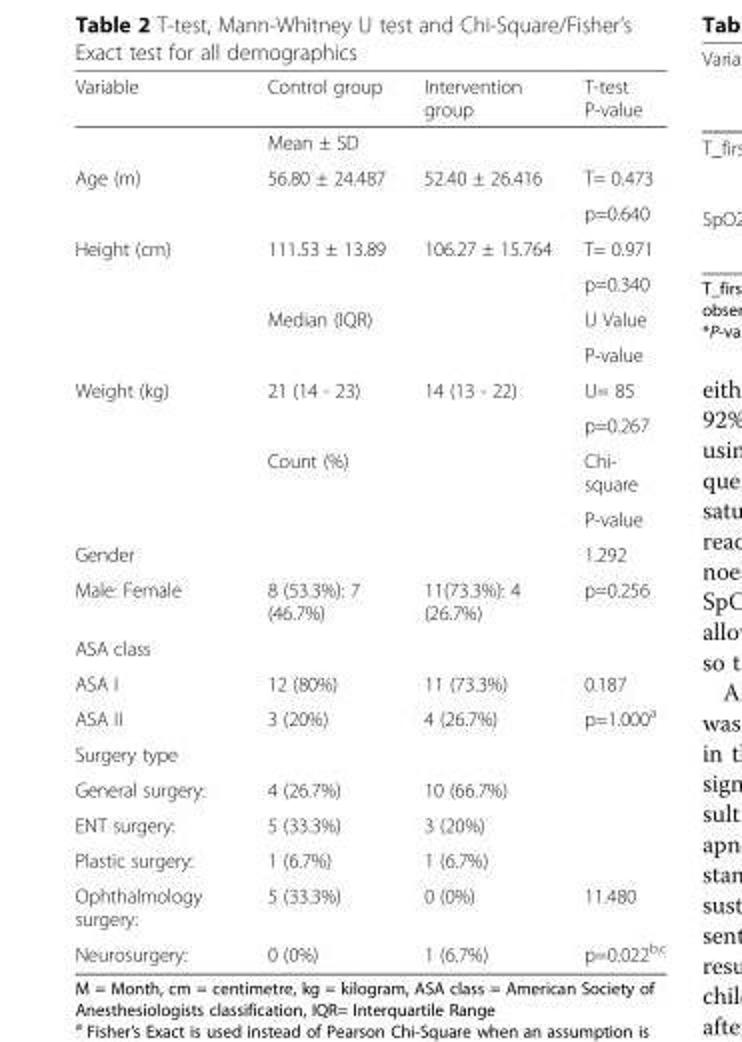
<table><thead><tr><td>Variable</td><td>Control group</td><td>Intervention group</td><td>T-test P-value</td></tr></thead><tbody><tr><td></td><td colspan="2">Mean ± SD</td><td></td></tr><tr><td rowspan="2">Age (m)</td><td rowspan="2">56.80 ± 24.487</td><td rowspan="2">52.40 ± 26.416</td><td>T= 0.473</td></tr><tr><td>p=0.640</td></tr><tr><td rowspan="4">Height (cm)</td><td rowspan="2">111.53 ± 13.89</td><td rowspan="2">106.27 ± 15.764</td><td>T= 0.971</td></tr><tr><td>p=0.340</td></tr><tr><td rowspan="2" colspan="2">Median (IQR)</td><td>U Value</td></tr><tr><td>P-value</td></tr><tr><td rowspan="4">Weight (kg)</td><td rowspan="2">21 (14 - 23)</td><td rowspan="2">14 (13 - 22)</td><td>U= 85</td></tr><tr><td>p=0.267</td></tr><tr><td rowspan="2" colspan="2">Count (%)</td><td>Chi- square</td></tr><tr><td>P-value</td></tr><tr><td>Gender</td><td></td><td></td><td>1.292</td></tr><tr><td>Male: Female</td><td>8 (53.3%): 7 (46.7%)</td><td>11(73.3%): 4 (26.7%)</td><td>p=0.256</td></tr><tr><td colspan="4">ASA class</td></tr><tr><td>ASA I</td><td>12 (80%)</td><td>11 (73.3%)</td><td>0.187</td></tr><tr><td>ASA II</td><td>3 (20%)</td><td>4 (26.7%)</td><td>p=1.000<sup>a</sup></td></tr><tr><td colspan="4">Surgery type</td></tr><tr><td>General surgery:</td><td>4 (26.7%)</td><td>10 (66.7%)</td><td></td></tr><tr><td>ENT surgery:</td><td>5 (33.3%)</td><td>3 (20%)</td><td></td></tr><tr><td>Plastic surgery:</td><td>1 (6.7%)</td><td>1 (6.7%)</td><td></td></tr><tr><td>Ophthalmology surgery:</td><td>5 (33.3%)</td><td>0 (0%)</td><td>11.480</td></tr><tr><td>Neurosurgery:</td><td>0 (0%)</td><td>1 (6.7%)</td><td>p=0.022<sup>b,c</sup></td></tr></tbody></table>